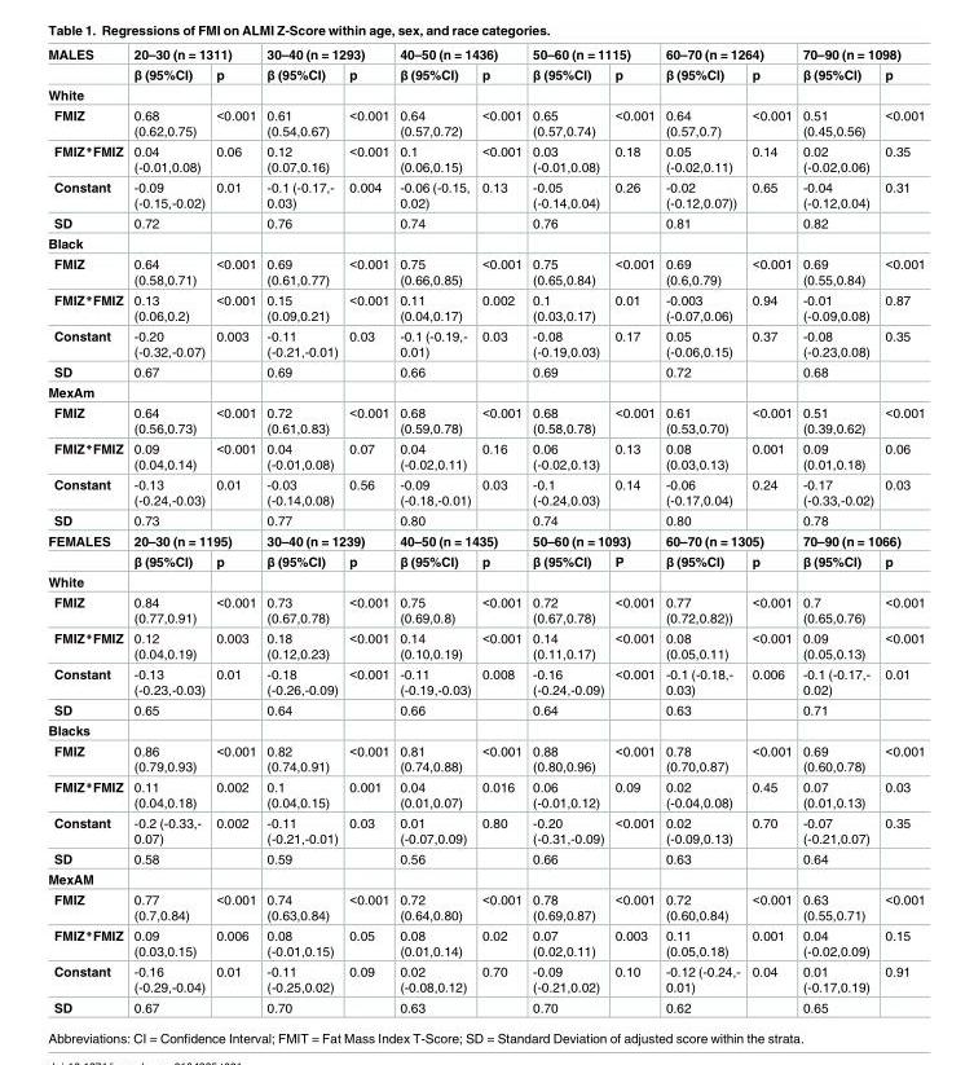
<table><tbody><tr><td rowspan="2">MALES</td><td colspan="2">20–30 (n = 1311)</td><td colspan="2">30–40 (n = 1293)</td><td colspan="2">40–50 (n = 1436)</td><td colspan="2">50–60 (n = 1115)</td><td colspan="2">60–70 (n = 1264)</td><td colspan="2">70–90 (n = 1098)</td></tr><tr><td>β (95%CI)</td><td>p</td><td>β (95%CI)</td><td>p</td><td>β (95%CI)</td><td>p</td><td>β (95%CI)</td><td>p</td><td>β (95%CI)</td><td>p</td><td>β (95%CI)</td><td>p</td></tr><tr><td colspan="13">White</td></tr><tr><td>FMIZ</td><td>0.68 (0.62,0.75)</td><td>&lt;0.001</td><td>0.61 (0.54,0.67)</td><td>&lt;0.001</td><td>0.64 (0.57,0.72)</td><td>&lt;0.001</td><td>0.65 (0.57,0.74)</td><td>&lt;0.001</td><td>0.64 (0.57,0.7)</td><td>&lt;0.001</td><td>0.51 (0.45,0.56)</td><td>&lt;0.001</td></tr><tr><td>FMIZ*FMIZ</td><td>0.04 (-0.01,0.08)</td><td>0.06</td><td>0.12 (0.07,0.16)</td><td>&lt;0.001</td><td>0.1 (0.06,0.15)</td><td>&lt;0.001</td><td>0.03 (-0.01,0.08)</td><td>0.18</td><td>0.05 (-0.02,0.11)</td><td>0.14</td><td>0.02 (-0.02,0.06)</td><td>0.35</td></tr><tr><td>Constant</td><td>-0.09 (-0.15,-0.02)</td><td>0.01</td><td>-0.1 (-0.17,- 0.03)</td><td>0.004</td><td>-0.06 (-0.15, 0.02)</td><td>0.13</td><td>-0.05 (-0.14,0.04)</td><td>0.26</td><td>-0.02 (-0.12,0.07))</td><td>0.65</td><td>-0.04 (-0.12,0.04)</td><td>0.31</td></tr><tr><td>SD</td><td>0.72</td><td></td><td>0.76</td><td></td><td>0.74</td><td></td><td>0.76</td><td></td><td>0.81</td><td></td><td>0.82</td><td></td></tr><tr><td colspan="13">Black</td></tr><tr><td>FMIZ</td><td>0.64 (0.58,0.71)</td><td>&lt;0.001</td><td>0.69 (0.61,0.77)</td><td>&lt;0.001</td><td>0.75 (0.66,0.85)</td><td>&lt;0.001</td><td>0.75 (0.65,0.84)</td><td>&lt;0.001</td><td>0.69 (0.6,0.79)</td><td>&lt;0.001</td><td>0.69 (0.55,0.84)</td><td>&lt;0.001</td></tr><tr><td>FMIZ*FMIZ</td><td>0.13 (0.06,0.2)</td><td>&lt;0.001</td><td>0.15 (0.09,0.21)</td><td>&lt;0.001</td><td>0.11 (0.04,0.17)</td><td>0.002</td><td>0.1 (0.03,0.17)</td><td>0.01</td><td>-0.003 (-0.07,0.06)</td><td>0.94</td><td>-0.01 (-0.09,0.08)</td><td>0.87</td></tr><tr><td>Constant</td><td>-0.20 (-0.32,-0.07)</td><td>0.003</td><td>-0.11 (-0.21,-0.01)</td><td>0.03</td><td>-0.1 (-0.19,- 0.01)</td><td>0.03</td><td>-0.08 (-0.19,0.03)</td><td>0.17</td><td>0.05 (-0.06,0.15)</td><td>0.37</td><td>-0.08 (-0.23,0.08)</td><td>0.35</td></tr><tr><td>SD</td><td>0.67</td><td></td><td>0.69</td><td></td><td>0.66</td><td></td><td>0.69</td><td></td><td>0.72</td><td></td><td>0.68</td><td></td></tr><tr><td colspan="13">MexAm</td></tr><tr><td>FMIZ</td><td>0.64 (0.56,0.73)</td><td>&lt;0.001</td><td>0.72 (0.61,0.83)</td><td>&lt;0.001</td><td>0.68 (0.59,0.78)</td><td>&lt;0.001</td><td>0.68 (0.58,0.78)</td><td>&lt;0.001</td><td>0.61 (0.53,0.70)</td><td>&lt;0.001</td><td>0.51 (0.39,0.62)</td><td>&lt;0.001</td></tr><tr><td>FMIZ*FMIZ</td><td>0.09 (0.04,0.14)</td><td>&lt;0.001</td><td>0.04 (-0.01,0.08)</td><td>0.07</td><td>0.04 (-0.02,0.11)</td><td>0.16</td><td>0.06 (-0.02,0.13)</td><td>0.13</td><td>0.08 (0.03,0.13)</td><td>0.001</td><td>0.09 (0.01,0.18)</td><td>0.06</td></tr><tr><td>Constant</td><td>-0.13 (-0.24,-0.03)</td><td>0.01</td><td>-0.03 (-0.14,0.08)</td><td>0.56</td><td>-0.09 (-0.18,-0.01)</td><td>0.03</td><td>-0.1 (-0.24,0.03)</td><td>0.14</td><td>-0.06 (-0.17,0.04)</td><td>0.24</td><td>-0.17 (-0.33,-0.02)</td><td>0.03</td></tr><tr><td>SD</td><td>0.73</td><td></td><td>0.77</td><td></td><td>0.80</td><td></td><td>0.74</td><td></td><td>0.80</td><td></td><td>0.78</td><td></td></tr><tr><td rowspan="2">FEMALES</td><td colspan="2">20–30 (n = 1195)</td><td colspan="2">30–40 (n = 1239)</td><td colspan="2">40–50 (n = 1435)</td><td colspan="2">50–60 (n = 1093)</td><td colspan="2">60–70 (n = 1305)</td><td colspan="2">70–90 (n = 1066)</td></tr><tr><td>β (95%CI)</td><td>p</td><td>β (95%CI)</td><td>p</td><td>β (95%CI)</td><td>p</td><td>β (95%CI)</td><td>P</td><td>β (95%CI)</td><td>p</td><td>β (95%CI)</td><td>p</td></tr><tr><td colspan="13">White</td></tr><tr><td>FMIZ</td><td>0.84 (0.77,0.91)</td><td>&lt;0.001</td><td>0.73 (0.67,0.78)</td><td>&lt;0.001</td><td>0.75 (0.69,0.8)</td><td>&lt;0.001</td><td>0.72 (0.67,0.78)</td><td>&lt;0.001</td><td>0.77 (0.72,0.82))</td><td>&lt;0.001</td><td>0.7 (0.65,0.76)</td><td>&lt;0.001</td></tr><tr><td>FMIZ*FMIZ</td><td>0.12 (0.04,0.19)</td><td>0.003</td><td>0.18 (0.12,0.23)</td><td>&lt;0.001</td><td>0.14 (0.10,0.19)</td><td>&lt;0.001</td><td>0.14 (0.11,0.17)</td><td>&lt;0.001</td><td>0.08 (0.05,0.11)</td><td>&lt;0.001</td><td>0.09 (0.05,0.13)</td><td>&lt;0.001</td></tr><tr><td>Constant</td><td>-0.13 (-0.23,-0.03)</td><td>0.01</td><td>-0.18 (-0.26,-0.09)</td><td>&lt;0.001</td><td>-0.11 (-0.19,-0.03)</td><td>0.008</td><td>-0.16 (-0.24,-0.09)</td><td>&lt;0.001</td><td>-0.1 (-0.18,- 0.03)</td><td>0.006</td><td>-0.1 (-0.17,- 0.02)</td><td>0.01</td></tr><tr><td>SD</td><td>0.65</td><td></td><td>0.64</td><td></td><td>0.66</td><td></td><td>0.64</td><td></td><td>0.63</td><td></td><td>0.71</td><td></td></tr><tr><td colspan="13">Blacks</td></tr><tr><td>FMIZ</td><td>0.86 (0.79,0.93)</td><td>&lt;0.001</td><td>0.82 (0.74,0.91)</td><td>&lt;0.001</td><td>0.81 (0.74,0.88)</td><td>&lt;0.001</td><td>0.88 (0.80,0.96)</td><td>&lt;0.001</td><td>0.78 (0.70,0.87)</td><td>&lt;0.001</td><td>0.69 (0.60,0.78)</td><td>&lt;0.001</td></tr><tr><td>FMIZ*FMIZ</td><td>0.11 (0.04,0.18)</td><td>0.002</td><td>0.1 (0.04,0.15)</td><td>0.001</td><td>0.04 (0.01,0.07)</td><td>0.016</td><td>0.06 (-0.01,0.12)</td><td>0.09</td><td>0.02 (-0.04,0.08)</td><td>0.45</td><td>0.07 (0.01,0.13)</td><td>0.03</td></tr><tr><td>Constant</td><td>-0.2 (-0.33,- 0.07)</td><td>0.002</td><td>-0.11 (-0.21,-0.01)</td><td>0.03</td><td>0.01 (-0.07,0.09)</td><td>0.80</td><td>-0.20 (-0.31,-0.09)</td><td>&lt;0.001</td><td>0.02 (-0.09,0.13)</td><td>0.70</td><td>-0.07 (-0.21,0.07)</td><td>0.35</td></tr><tr><td>SD</td><td>0.58</td><td></td><td>0.59</td><td></td><td>0.56</td><td></td><td>0.66</td><td></td><td>0.63</td><td></td><td>0.64</td><td></td></tr><tr><td colspan="13">MexAM</td></tr><tr><td>FMIZ</td><td>0.77 (0.7,0.84)</td><td>&lt;0.001</td><td>0.74 (0.63,0.84)</td><td>&lt;0.001</td><td>0.72 (0.64,0.80)</td><td>&lt;0.001</td><td>0.78 (0.69,0.87)</td><td>&lt;0.001</td><td>0.72 (0.60,0.84)</td><td>&lt;0.001</td><td>0.63 (0.55,0.71)</td><td>&lt;0.001</td></tr><tr><td>FMIZ*FMIZ</td><td>0.09 (0.03,0.15)</td><td>0.006</td><td>0.08 (-0.01,0.15)</td><td>0.05</td><td>0.08 (0.01,0.14)</td><td>0.02</td><td>0.07 (0.02,0.11)</td><td>0.003</td><td>0.11 (0.05,0.18)</td><td>0.001</td><td>0.04 (-0.02,0.09)</td><td>0.15</td></tr><tr><td>Constant</td><td>-0.16 (-0.29,-0.04)</td><td>0.01</td><td>-0.11 (-0.25,0.02)</td><td>0.09</td><td>0.02 (-0.08,0.12)</td><td>0.70</td><td>-0.09 (-0.21,0.02)</td><td>0.10</td><td>-0.12 (-0.24,- 0.01)</td><td>0.04</td><td>0.01 (-0.17,0.19)</td><td>0.91</td></tr><tr><td>SD</td><td>0.67</td><td></td><td>0.70</td><td></td><td>0.63</td><td></td><td>0.70</td><td></td><td>0.62</td><td></td><td>0.65</td><td></td></tr></tbody></table>